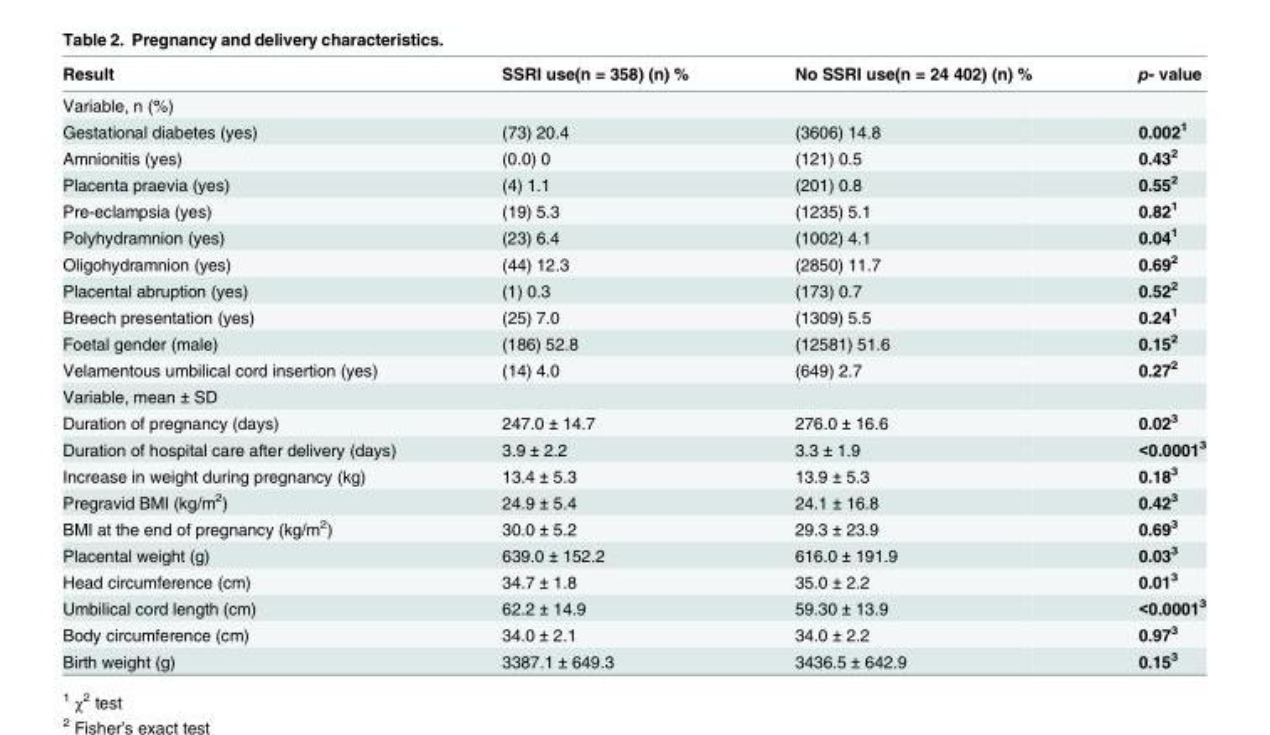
<table><thead><tr><td>Result</td><td>SSRI use(n = 358) (n) %</td><td>No SSRI use(n = 24 402) (n) %</td><td>p- value</td></tr></thead><tbody><tr><td colspan="4">Variable, n (%)</td></tr><tr><td>Gestational diabetes (yes)</td><td>(73) 20.4</td><td>(3606) 14.8</td><td>0.002<sup>1</sup></td></tr><tr><td>Amnionitis (yes)</td><td>(0.0) 0</td><td>(121) 0.5</td><td>0.43<sup>2</sup></td></tr><tr><td>Placenta praevia (yes)</td><td>(4) 1.1</td><td>(201) 0.8</td><td>0.55<sup>2</sup></td></tr><tr><td>Pre-eclampsia (yes)</td><td>(19) 5.3</td><td>(1235) 5.1</td><td>0.82<sup>1</sup></td></tr><tr><td>Polyhydramnion (yes)</td><td>(23) 6.4</td><td>(1002) 4.1</td><td>0.04<sup>1</sup></td></tr><tr><td>Oligohydramnion (yes)</td><td>(44) 12.3</td><td>(2850) 11.7</td><td>0.69<sup>2</sup></td></tr><tr><td>Placental abruption (yes)</td><td>(1) 0.3</td><td>(173) 0.7</td><td>0.52<sup>2</sup></td></tr><tr><td>Breech presentation (yes)</td><td>(25) 7.0</td><td>(1309) 5.5</td><td>0.24<sup>1</sup></td></tr><tr><td>Foetal gender (male)</td><td>(186) 52.8</td><td>(12581) 51.6</td><td>0.15<sup>2</sup></td></tr><tr><td>Velamentous umbilical cord insertion (yes)</td><td>(14) 4.0</td><td>(649) 2.7</td><td>0.27<sup>2</sup></td></tr><tr><td colspan="4">Variable, mean ± SD</td></tr><tr><td>Duration of pregnancy (days)</td><td>247.0 ± 14.7</td><td>276.0 ± 16.6</td><td>0.02<sup>3</sup></td></tr><tr><td>Duration of hospital care after delivery (days)</td><td>3.9 ± 2.2</td><td>3.3 ± 1.9</td><td>&lt;0.0001<sup>3</sup></td></tr><tr><td>Increase in weight during pregnancy (kg)</td><td>13.4 ± 5.3</td><td>13.9 ± 5.3</td><td>0.18<sup>3</sup></td></tr><tr><td>Pregravid BMI (kg/m<sup>2</sup>)</td><td>24.9 ± 5.4</td><td>24.1 ± 16.8</td><td>0.42<sup>3</sup></td></tr><tr><td>BMI at the end of pregnancy (kg/m<sup>2</sup>)</td><td>30.0 ± 5.2</td><td>29.3 ± 23.9</td><td>0.69<sup>3</sup></td></tr><tr><td>Placental weight (g)</td><td>639.0 ± 152.2</td><td>616.0 ± 191.9</td><td>0.03<sup>3</sup></td></tr><tr><td>Head circumference (cm)</td><td>34.7 ± 1.8</td><td>35.0 ± 2.2</td><td>0.01<sup>3</sup></td></tr><tr><td>Umbilical cord length (cm)</td><td>62.2 ± 14.9</td><td>59.30 ± 13.9</td><td>&lt;0.0001<sup>3</sup></td></tr><tr><td>Body circumference (cm)</td><td>34.0 ± 2.1</td><td>34.0 ± 2.2</td><td>0.97<sup>3</sup></td></tr><tr><td>Birth weight (g)</td><td>3387.1 ± 649.3</td><td>3436.5 ± 642.9</td><td>0.15<sup>3</sup></td></tr></tbody></table>